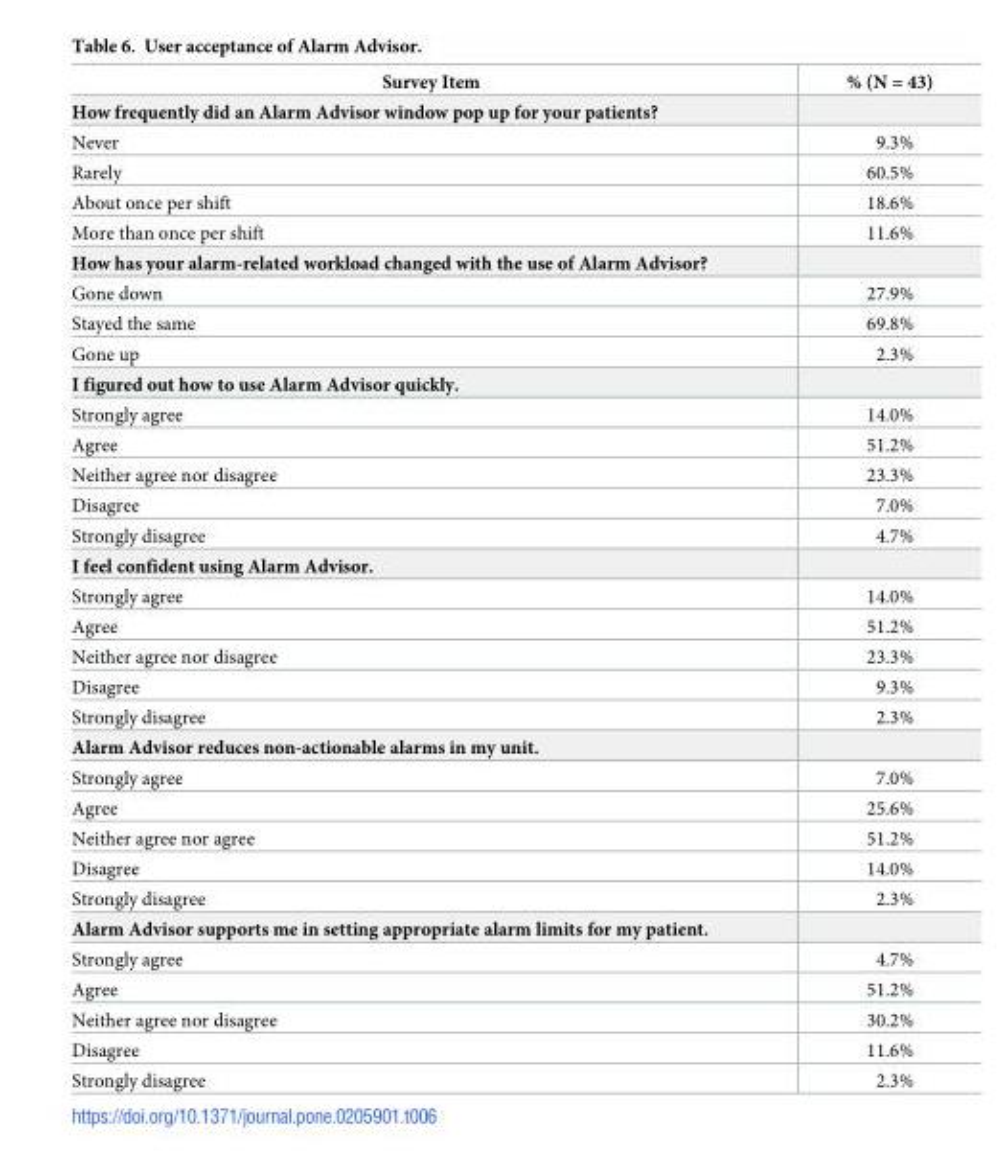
<table><thead><tr><td>Survey Item</td><td>% (N = 43)</td></tr></thead><tbody><tr><td colspan="2">How frequently did an Alarm Advisor window pop up for your patients?</td></tr><tr><td>Never</td><td>9.3%</td></tr><tr><td>Rarely</td><td>60.5%</td></tr><tr><td>About once per shift</td><td>18.6%</td></tr><tr><td>More than once per shift</td><td>11.6%</td></tr><tr><td colspan="2">How has your alarm-related workload changed with the use of Alarm Advisor?</td></tr><tr><td>Gone down</td><td>27.9%</td></tr><tr><td>Stayed the same</td><td>69.8%</td></tr><tr><td>Gone up</td><td>2.3%</td></tr><tr><td colspan="2">I figured out how to use Alarm Advisor quickly.</td></tr><tr><td>Strongly agree</td><td>14.0%</td></tr><tr><td>Agree</td><td>51.2%</td></tr><tr><td>Neither agree nor disagree</td><td>23.3%</td></tr><tr><td>Disagree</td><td>7.0%</td></tr><tr><td>Strongly disagree</td><td>4.7%</td></tr><tr><td colspan="2">I feel confident using Alarm Advisor.</td></tr><tr><td>Strongly agree</td><td>14.0%</td></tr><tr><td>Agree</td><td>51.2%</td></tr><tr><td>Neither agree nor disagree</td><td>23.3%</td></tr><tr><td>Disagree</td><td>9.3%</td></tr><tr><td>Strongly disagree</td><td>2.3%</td></tr><tr><td colspan="2">Alarm Advisor reduces non-actionable alarms in my unit.</td></tr><tr><td>Strongly agree</td><td>7.0%</td></tr><tr><td>Agree</td><td>25.6%</td></tr><tr><td>Neither agree nor agree</td><td>51.2%</td></tr><tr><td>Disagree</td><td>14.0%</td></tr><tr><td>Strongly disagree</td><td>2.3%</td></tr><tr><td colspan="2">Alarm Advisor supports me in setting appropriate alarm limits for my patient.</td></tr><tr><td>Strongly agree</td><td>4.7%</td></tr><tr><td>Agree</td><td>51.2%</td></tr><tr><td>Neither agree nor disagree</td><td>30.2%</td></tr><tr><td>Disagree</td><td>11.6%</td></tr><tr><td>Strongly disagree</td><td>2.3%</td></tr></tbody></table>